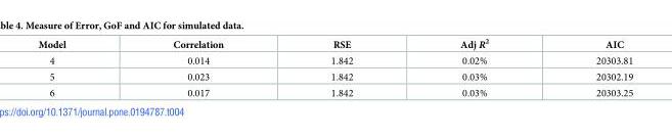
<table><thead><tr><td>Model</td><td>Correlation</td><td>RSE</td><td>Adj R<sup>2</sup></td><td>AIC</td></tr></thead><tbody><tr><td>4</td><td>0.014</td><td>1.842</td><td>0.02%</td><td>20303.81</td></tr><tr><td>5</td><td>0.023</td><td>1.842</td><td>0.03%</td><td>20302.19</td></tr><tr><td>6</td><td>0.017</td><td>1.842</td><td>0.03%</td><td>20303.25</td></tr></tbody></table>